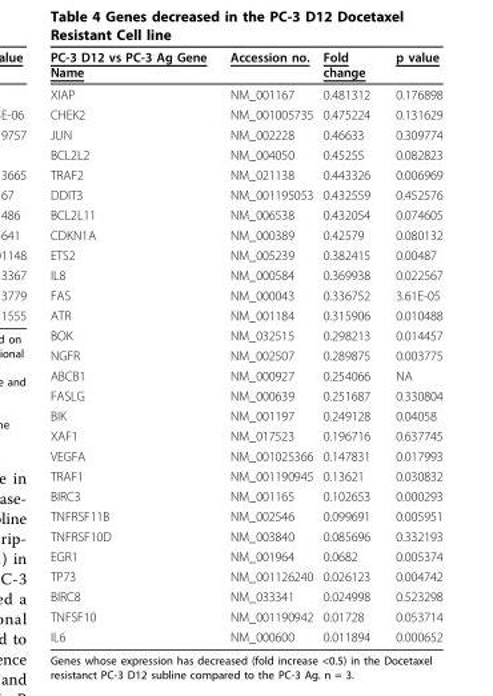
<table><thead><tr><td>PC-3 D12 vs PC-3 Ag Gene Name</td><td>Accession no.</td><td>Fold change</td><td>p value</td></tr></thead><tbody><tr><td>XIAP</td><td>NM_001167</td><td>0.481312</td><td>0.176898</td></tr><tr><td>CHEK2</td><td>NM_001005735</td><td>0.475224</td><td>0.131629</td></tr><tr><td>JUN</td><td>NM_002228</td><td>0.46633</td><td>0.309774</td></tr><tr><td>BCL2L2</td><td>NM_004050</td><td>0.45255</td><td>0.082823</td></tr><tr><td>TRAF2</td><td>NM_021138</td><td>0.443326</td><td>0.006969</td></tr><tr><td>DDIT3</td><td>NM_001195053</td><td>0.432559</td><td>0.452576</td></tr><tr><td>BCL2L11</td><td>NM_006538</td><td>0.432054</td><td>0.074605</td></tr><tr><td>CDKN1A</td><td>NM_000389</td><td>0.42579</td><td>0.080132</td></tr><tr><td>ETS2</td><td>NM_005239</td><td>0.382415</td><td>0.00487</td></tr><tr><td>IL8</td><td>NM_000584</td><td>0.369938</td><td>0.022567</td></tr><tr><td>FAS</td><td>NM_000043</td><td>0.336752</td><td>3.61E-05</td></tr><tr><td>ATR</td><td>NM_001184</td><td>0.315906</td><td>0.010488</td></tr><tr><td>BOK</td><td>NM_032515</td><td>0.298213</td><td>0.014457</td></tr><tr><td>NGFR</td><td>NM_002507</td><td>0.289875</td><td>0.003775</td></tr><tr><td>ABCB1</td><td>NM_000927</td><td>0.254066</td><td>NA</td></tr><tr><td>FASLG</td><td>NM_000639</td><td>0.251687</td><td>0.330804</td></tr><tr><td>BIK</td><td>NM_001197</td><td>0.249128</td><td>0.04058</td></tr><tr><td>XAF1</td><td>NM_017523</td><td>0.196716</td><td>0.637745</td></tr><tr><td>VEGFA</td><td>NM_001025366</td><td>0.147831</td><td>0.017993</td></tr><tr><td>TRAF1</td><td>NM_001190945</td><td>0.13621</td><td>0.030832</td></tr><tr><td>BIRC3</td><td>NM_001165</td><td>0.102653</td><td>0.000293</td></tr><tr><td>TNFRSF11B</td><td>NM_002546</td><td>0.099691</td><td>0.005951</td></tr><tr><td>TNFRSF10D</td><td>NM_003840</td><td>0.085696</td><td>0.332193</td></tr><tr><td>EGR1</td><td>NM_001964</td><td>0.0682</td><td>0.005374</td></tr><tr><td>TP73</td><td>NM_001126240</td><td>0.026123</td><td>0.004742</td></tr><tr><td>BIRC8</td><td>NM_033341</td><td>0.024998</td><td>0.523298</td></tr><tr><td>TNFSF10</td><td>NM_001190942</td><td>0.01728</td><td>0.053714</td></tr><tr><td>IL6</td><td>NM_000600</td><td>0.011894</td><td>0.000652</td></tr></tbody></table>